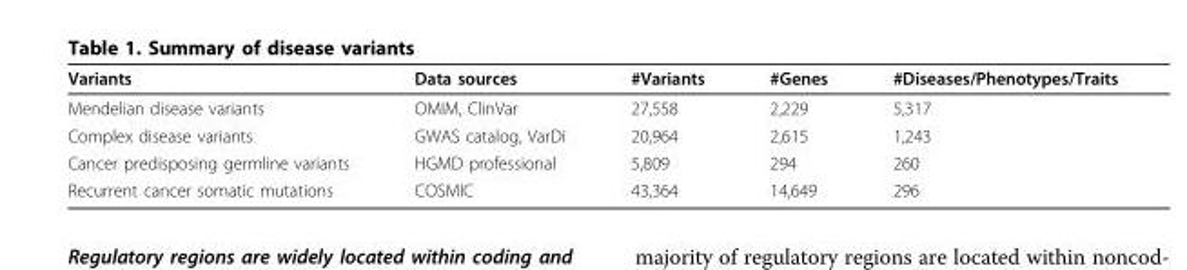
<table><thead><tr><td>Variants</td><td>Data sources</td><td>#Variants</td><td>#Genes</td><td>#Diseases/Phenotypes/Traits</td></tr></thead><tbody><tr><td>Mendelian disease variants</td><td>OMIM, ClinVar</td><td>27,558</td><td>2,229</td><td>5,317</td></tr><tr><td>Complex disease variants</td><td>GWAS catalog, VarDi</td><td>20,964</td><td>2,615</td><td>1,243</td></tr><tr><td>Cancer predisposing germline variants</td><td>HGMD professional</td><td>5,809</td><td>294</td><td>260</td></tr><tr><td>Recurrent cancer somatic mutations</td><td>COSMIC</td><td>43,364</td><td>14,649</td><td>296</td></tr></tbody></table>